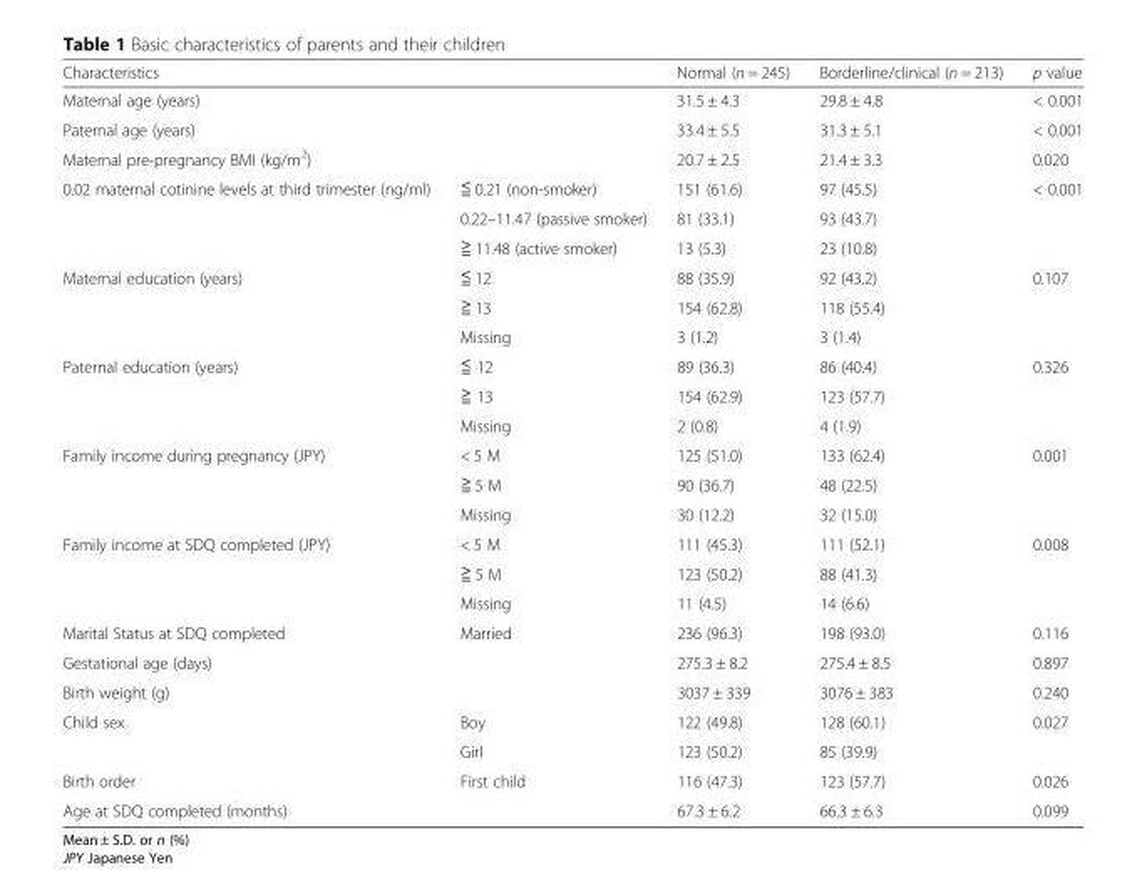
<table><thead><tr><td colspan="2">Characteristics</td><td>Normal (n = 245)</td><td>Borderline/clinical (n = 213)</td><td>p value</td></tr></thead><tbody><tr><td colspan="2">Maternal age (years)</td><td>31.5 ± 4.3</td><td>29.8 ± 4.8</td><td>&lt; 0.001</td></tr><tr><td colspan="2">Paternal age (years)</td><td>33.4 ± 5.5</td><td>31.3 ± 5.1</td><td>&lt; 0.001</td></tr><tr><td colspan="2">Maternal pre-pregnancy BMI (kg/m<sup>2</sup>)</td><td>20.7 ± 2.5</td><td>21.4 ± 3.3</td><td>0.020</td></tr><tr><td rowspan="3">0.02 maternal cotinine levels at third trimester (ng/ml)</td><td>≦ 0.21 (non-smoker)</td><td>151 (61.6)</td><td>97 (45.5)</td><td rowspan="3">&lt; 0.001</td></tr><tr><td>0.22–11.47 (passive smoker)</td><td>81 (33.1)</td><td>93 (43.7)</td></tr><tr><td>≧ 11.48 (active smoker)</td><td>13 (5.3)</td><td>23 (10.8)</td></tr><tr><td rowspan="3">Maternal education (years)</td><td>≦ 12</td><td>88 (35.9)</td><td>92 (43.2)</td><td rowspan="3">0.107</td></tr><tr><td>≧ 13</td><td>154 (62.8)</td><td>118 (55.4)</td></tr><tr><td>Missing</td><td>3 (1.2)</td><td>3 (1.4)</td></tr><tr><td rowspan="3">Paternal education (years)</td><td>≦ 12</td><td>89 (36.3)</td><td>86 (40.4)</td><td rowspan="3">0.326</td></tr><tr><td>≧ 13</td><td>154 (62.9)</td><td>123 (57.7)</td></tr><tr><td>Missing</td><td>2 (0.8)</td><td>4 (1.9)</td></tr><tr><td rowspan="3">Family income during pregnancy (JPY)</td><td>&lt; 5 M</td><td>125 (51.0)</td><td>133 (62.4)</td><td rowspan="3">0.001</td></tr><tr><td>≧ 5 M</td><td>90 (36.7)</td><td>48 (22.5)</td></tr><tr><td>Missing</td><td>30 (12.2)</td><td>32 (15.0)</td></tr><tr><td rowspan="3">Family income at SDQ completed (JPY)</td><td>&lt; 5 M</td><td>111 (45.3)</td><td>111 (52.1)</td><td rowspan="3">0.008</td></tr><tr><td>≧ 5 M</td><td>123 (50.2)</td><td>88 (41.3)</td></tr><tr><td>Missing</td><td>11 (4.5)</td><td>14 (6.6)</td></tr><tr><td>Marital Status at SDQ completed</td><td>Married</td><td>236 (96.3)</td><td>198 (93.0)</td><td>0.116</td></tr><tr><td colspan="2">Gestational age (days)</td><td>275.3 ± 8.2</td><td>275.4 ± 8.5</td><td>0.897</td></tr><tr><td colspan="2">Birth weight (g)</td><td>3037 ± 339</td><td>3076 ± 383</td><td>0.240</td></tr><tr><td rowspan="2">Child sex</td><td>Boy</td><td>122 (49.8)</td><td>128 (60.1)</td><td rowspan="2">0.027</td></tr><tr><td>Girl</td><td>123 (50.2)</td><td>85 (39.9)</td></tr><tr><td>Birth order</td><td>First child</td><td>116 (47.3)</td><td>123 (57.7)</td><td>0.026</td></tr><tr><td colspan="2">Age at SDQ completed (months)</td><td>67.3 ± 6.2</td><td>66.3 ± 6.3</td><td>0.099</td></tr></tbody></table>